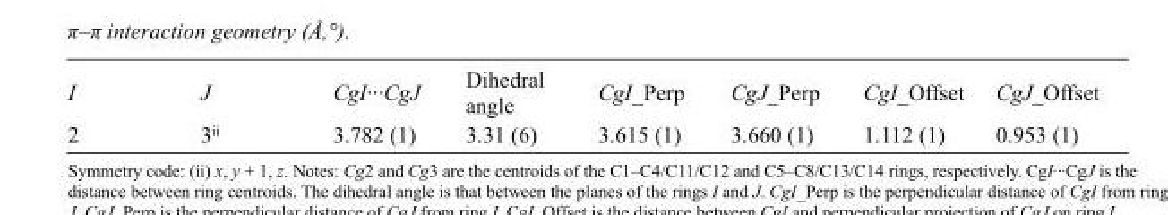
<table><tbody><tr><td>I</td><td>J</td><td>CgI···CgJ</td><td>Dihedral angle</td><td>CgI_Perp</td><td>CgJ_Perp</td><td>CgI_Offset</td><td>CgJ_Offset</td></tr><tr><td>2</td><td>3<sup>ii</sup></td><td>3.782 (1)</td><td>3.31 (6)</td><td>3.615 (1)</td><td>3.660 (1)</td><td>1.112 (1)</td><td>0.953 (1)</td></tr></tbody></table>